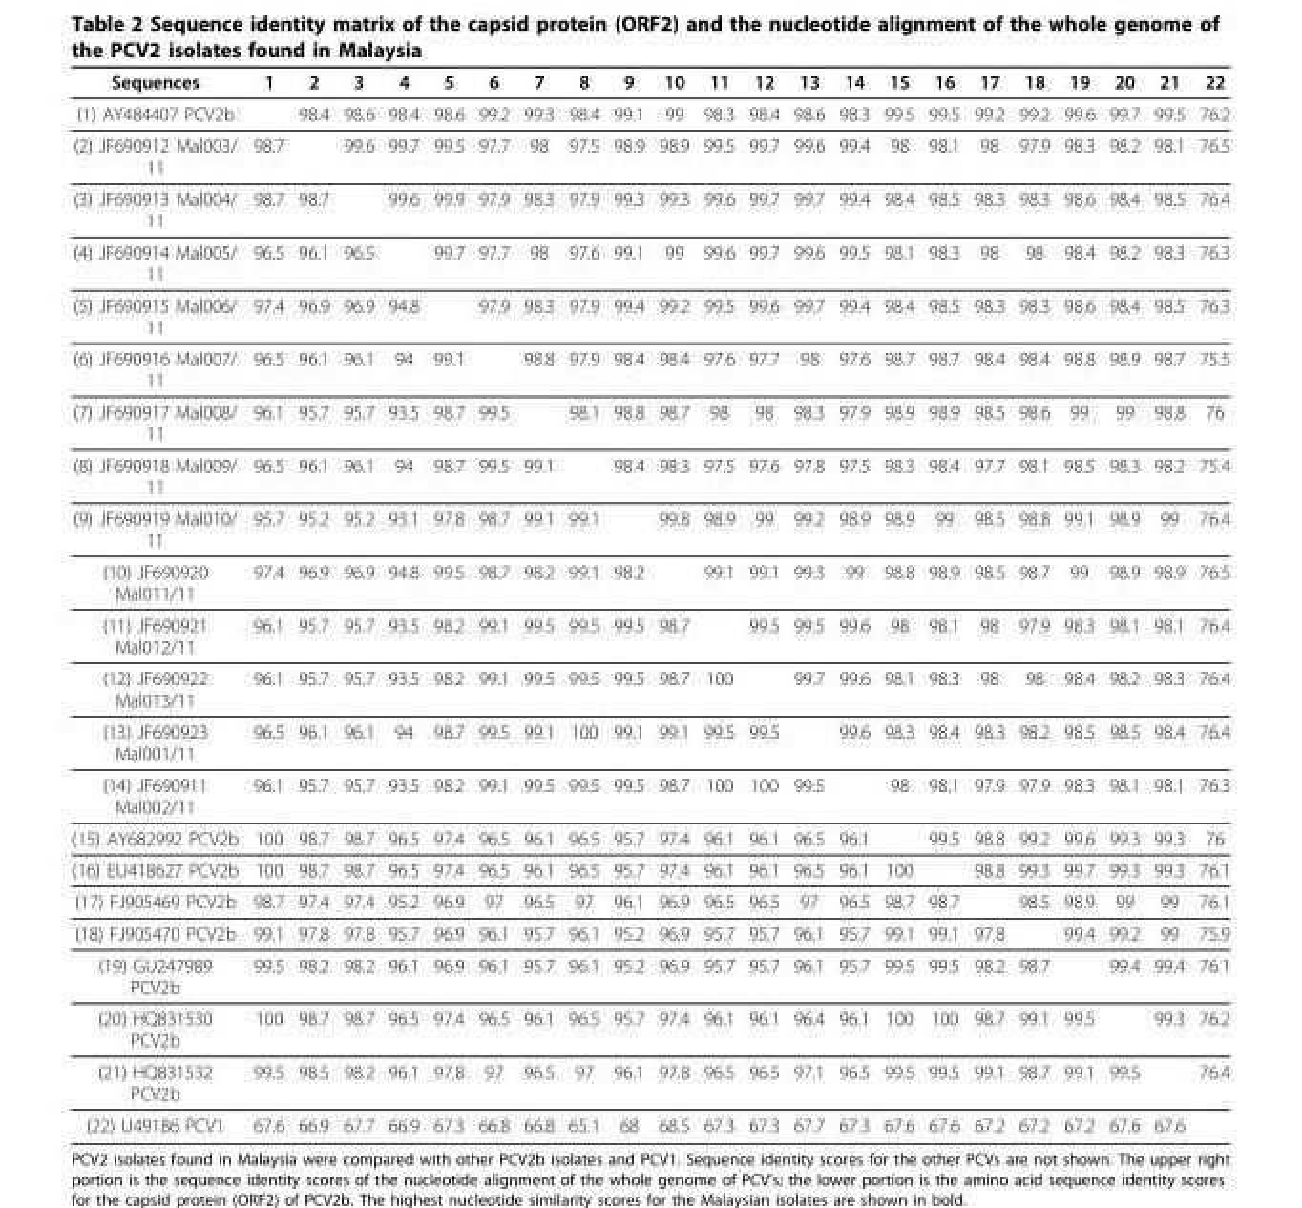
<table><thead><tr><td>Sequences</td><td>1</td><td>2</td><td>3</td><td>4</td><td>5</td><td>6</td><td>7</td><td>8</td><td>9</td><td>10</td><td>11</td><td>12</td><td>13</td><td>14</td><td>15</td><td>16</td><td>17</td><td>18</td><td>19</td><td>20</td><td>21</td><td>22</td></tr></thead><tbody><tr><td>(1) AY484407 PCV2b</td><td></td><td>98.4</td><td>98.6</td><td>98.4</td><td>98.6</td><td>99.2</td><td>99.3</td><td>98.4</td><td>99.1</td><td>99</td><td>98.3</td><td>98.4</td><td>98.6</td><td>98.3</td><td>99.5</td><td>99.5</td><td>99.2</td><td>99.2</td><td>99.6</td><td>99.7</td><td>99.5</td><td>76.2</td></tr><tr><td>(2) JF690912 Mal003/ 11</td><td>98.7</td><td></td><td>99.6</td><td>99.7</td><td>99.5</td><td>97.7</td><td>98</td><td>97.5</td><td>98.9</td><td>98.9</td><td>99.5</td><td>99.7</td><td>99.6</td><td>99.4</td><td>98</td><td>98.1</td><td>98</td><td>97.9</td><td>98.3</td><td>98.2</td><td>98.1</td><td>76.5</td></tr><tr><td>(3) JF690913 Mal004/ 11</td><td>98.7</td><td>98.7</td><td></td><td>99.6</td><td>99.9</td><td>97.9</td><td>98.3</td><td>97.9</td><td>99.3</td><td>99.3</td><td>99.6</td><td>99.7</td><td>99.7</td><td>99.4</td><td>98.4</td><td>98.5</td><td>98.3</td><td>98.3</td><td>98.6</td><td>98.4</td><td>98.5</td><td>76.4</td></tr><tr><td>(4) JF690914 Mal005/ 11</td><td>96.5</td><td>96.1</td><td>96.5</td><td></td><td>99.7</td><td>97.7</td><td>98</td><td>97.6</td><td>99.1</td><td>99</td><td>99.6</td><td>99.7</td><td>99.6</td><td>99.5</td><td>98.1</td><td>98.3</td><td>98</td><td>98</td><td>98.4</td><td>98.2</td><td>98.3</td><td>76.3</td></tr><tr><td>(5) JF690915 Mal006/ 11</td><td>97.4</td><td>96.9</td><td>96.9</td><td>94.8</td><td></td><td>97.9</td><td>98.3</td><td>97.9</td><td>99.4</td><td>99.2</td><td>99.5</td><td>99.6</td><td>99.7</td><td>99.4</td><td>98.4</td><td>98.5</td><td>98.3</td><td>98.3</td><td>98.6</td><td>98.4</td><td>98.5</td><td>76.3</td></tr><tr><td>(6) JF690916 Mal007/ 11</td><td>96.5</td><td>96.1</td><td>96.1</td><td>94</td><td>99.1</td><td></td><td>98.8</td><td>97.9</td><td>98.4</td><td>98.4</td><td>97.6</td><td>97.7</td><td>98</td><td>97.6</td><td>98.7</td><td>98.7</td><td>98.4</td><td>98.4</td><td>98.8</td><td>98.9</td><td>98.7</td><td>75.5</td></tr><tr><td>(7) JF690917 Mal008/ 11</td><td>96.1</td><td>95.7</td><td>95.7</td><td>93.5</td><td>98.7</td><td>99.5</td><td></td><td>98.1</td><td>98.8</td><td>98.7</td><td>98</td><td>98</td><td>98.3</td><td>97.9</td><td>98.9</td><td>98.9</td><td>98.5</td><td>98.6</td><td>99</td><td>99</td><td>98.8</td><td>76</td></tr><tr><td>(8) JF690918 Mal009/ 11</td><td>96.5</td><td>96.1</td><td>96.1</td><td>94</td><td>98.7</td><td>99.5</td><td>99.1</td><td></td><td>98.4</td><td>98.3</td><td>97.5</td><td>97.6</td><td>97.8</td><td>97.5</td><td>98.3</td><td>98.4</td><td>97.7</td><td>98.1</td><td>98.5</td><td>98.3</td><td>98.2</td><td>75.4</td></tr><tr><td>(9) JF690919 Mal010/ 11</td><td>95.7</td><td>95.2</td><td>95.2</td><td>93.1</td><td>97.8</td><td>98.7</td><td>99.1</td><td>99.1</td><td></td><td>99.8</td><td>98.9</td><td>99</td><td>99.2</td><td>98.9</td><td>98.9</td><td>99</td><td>98.5</td><td>98.8</td><td>99.1</td><td>98.9</td><td>99</td><td>76.4</td></tr><tr><td>(10) JF690920 Mal011/11</td><td>97.4</td><td>96.9</td><td>96.9</td><td>94.8</td><td>99.5</td><td>98.7</td><td>98.2</td><td>99.1</td><td>98.2</td><td></td><td>99.1</td><td>99.1</td><td>99.3</td><td>99</td><td>98.8</td><td>98.9</td><td>98.5</td><td>98.7</td><td>99</td><td>98.9</td><td>98.9</td><td>76.5</td></tr><tr><td>(11) JF690921 Mal012/11</td><td>96.1</td><td>95.7</td><td>95.7</td><td>93.5</td><td>98.2</td><td>99.1</td><td>99.5</td><td>99.5</td><td>99.5</td><td>98.7</td><td></td><td>99.5</td><td>99.5</td><td>99.6</td><td>98</td><td>98.1</td><td>98</td><td>97.9</td><td>98.3</td><td>98.1</td><td>98.1</td><td>76.4</td></tr><tr><td>(12) JF690922 Mal013/11</td><td>96.1</td><td>95.7</td><td>95.7</td><td>93.5</td><td>98.2</td><td>99.1</td><td>99.5</td><td>99.5</td><td>99.5</td><td>98.7</td><td>100</td><td></td><td>99.7</td><td>99.6</td><td>98.1</td><td>98.3</td><td>98</td><td>98</td><td>98.4</td><td>98.2</td><td>98.3</td><td>76.4</td></tr><tr><td>(13) JF690923 Mal001/11</td><td>96.5</td><td>96.1</td><td>96.1</td><td>94</td><td>98.7</td><td>99.5</td><td>99.1</td><td>100</td><td>99.1</td><td>99.1</td><td>99.5</td><td>99.5</td><td></td><td>99.6</td><td>98.3</td><td>98.4</td><td>98.3</td><td>98.2</td><td>98.5</td><td>98.5</td><td>98.4</td><td>76.4</td></tr><tr><td>(14) JF690911 Mal002/11</td><td>96.1</td><td>95.7</td><td>95.7</td><td>93.5</td><td>98.2</td><td>99.1</td><td>99.5</td><td>99.5</td><td>99.5</td><td>98.7</td><td>100</td><td>100</td><td>99.5</td><td></td><td>98</td><td>98.1</td><td>97.9</td><td>97.9</td><td>98.3</td><td>98.1</td><td>98.1</td><td>76.3</td></tr><tr><td>(15) AY682992 PCV2b</td><td>100</td><td>98.7</td><td>98.7</td><td>96.5</td><td>97.4</td><td>96.5</td><td>96.1</td><td>96.5</td><td>95.7</td><td>97.4</td><td>96.1</td><td>96.1</td><td>96.5</td><td>96.1</td><td></td><td>99.5</td><td>98.8</td><td>99.2</td><td>99.6</td><td>99.3</td><td>99.3</td><td>76</td></tr><tr><td>(16) EU418627 PCV2b</td><td>100</td><td>98.7</td><td>98.7</td><td>96.5</td><td>97.4</td><td>96.5</td><td>96.1</td><td>96.5</td><td>95.7</td><td>97.4</td><td>96.1</td><td>96.1</td><td>96.5</td><td>96.1</td><td>100</td><td></td><td>98.8</td><td>99.3</td><td>99.7</td><td>99.3</td><td>99.3</td><td>76.1</td></tr><tr><td>(17) FJ905469 PCV2b</td><td>98.7</td><td>97.4</td><td>97.4</td><td>95.2</td><td>96.9</td><td>97</td><td>96.5</td><td>97</td><td>96.1</td><td>96.9</td><td>96.5</td><td>96.5</td><td>97</td><td>96.5</td><td>98.7</td><td>98.7</td><td></td><td>98.5</td><td>98.9</td><td>99</td><td>99</td><td>76.1</td></tr><tr><td>(18) FJ905470 PCV2b</td><td>99.1</td><td>97.8</td><td>97.8</td><td>95.7</td><td>96.9</td><td>96.1</td><td>95.7</td><td>96.1</td><td>95.2</td><td>96.9</td><td>95.7</td><td>95.7</td><td>96.1</td><td>95.7</td><td>99.1</td><td>99.1</td><td>97.8</td><td></td><td>99.4</td><td>99.2</td><td>99</td><td>75.9</td></tr><tr><td>(19) GU247989 PCV2b</td><td>99.5</td><td>98.2</td><td>98.2</td><td>96.1</td><td>96.9</td><td>96.1</td><td>95.7</td><td>96.1</td><td>95.2</td><td>96.9</td><td>95.7</td><td>95.7</td><td>96.1</td><td>95.7</td><td>99.5</td><td>99.5</td><td>98.2</td><td>98.7</td><td></td><td>99.4</td><td>99.4</td><td>76.1</td></tr><tr><td>(20) HQ831530 PCV2b</td><td>100</td><td>98.7</td><td>98.7</td><td>96.5</td><td>97.4</td><td>96.5</td><td>96.1</td><td>96.5</td><td>95.7</td><td>97.4</td><td>96.1</td><td>96.1</td><td>96.4</td><td>96.1</td><td>100</td><td>100</td><td>98.7</td><td>99.1</td><td>99.5</td><td></td><td>99.3</td><td>76.2</td></tr><tr><td>(21) HQ831532 PCV2b</td><td>99.5</td><td>98.5</td><td>98.2</td><td>96.1</td><td>97.8</td><td>97</td><td>96.5</td><td>97</td><td>96.1</td><td>97.8</td><td>96.5</td><td>96.5</td><td>97.1</td><td>96.5</td><td>99.5</td><td>99.5</td><td>99.1</td><td>98.7</td><td>99.1</td><td>99.5</td><td></td><td>76.4</td></tr><tr><td>(22) U49186 PCV1</td><td>67.6</td><td>66.9</td><td>67.7</td><td>66.9</td><td>67.3</td><td>66.8</td><td>66.8</td><td>65.1</td><td>68</td><td>68.5</td><td>67.3</td><td>67.3</td><td>67.7</td><td>67.3</td><td>67.6</td><td>67.6</td><td>67.2</td><td>67.2</td><td>67.2</td><td>67.6</td><td>67.6</td><td></td></tr></tbody></table>